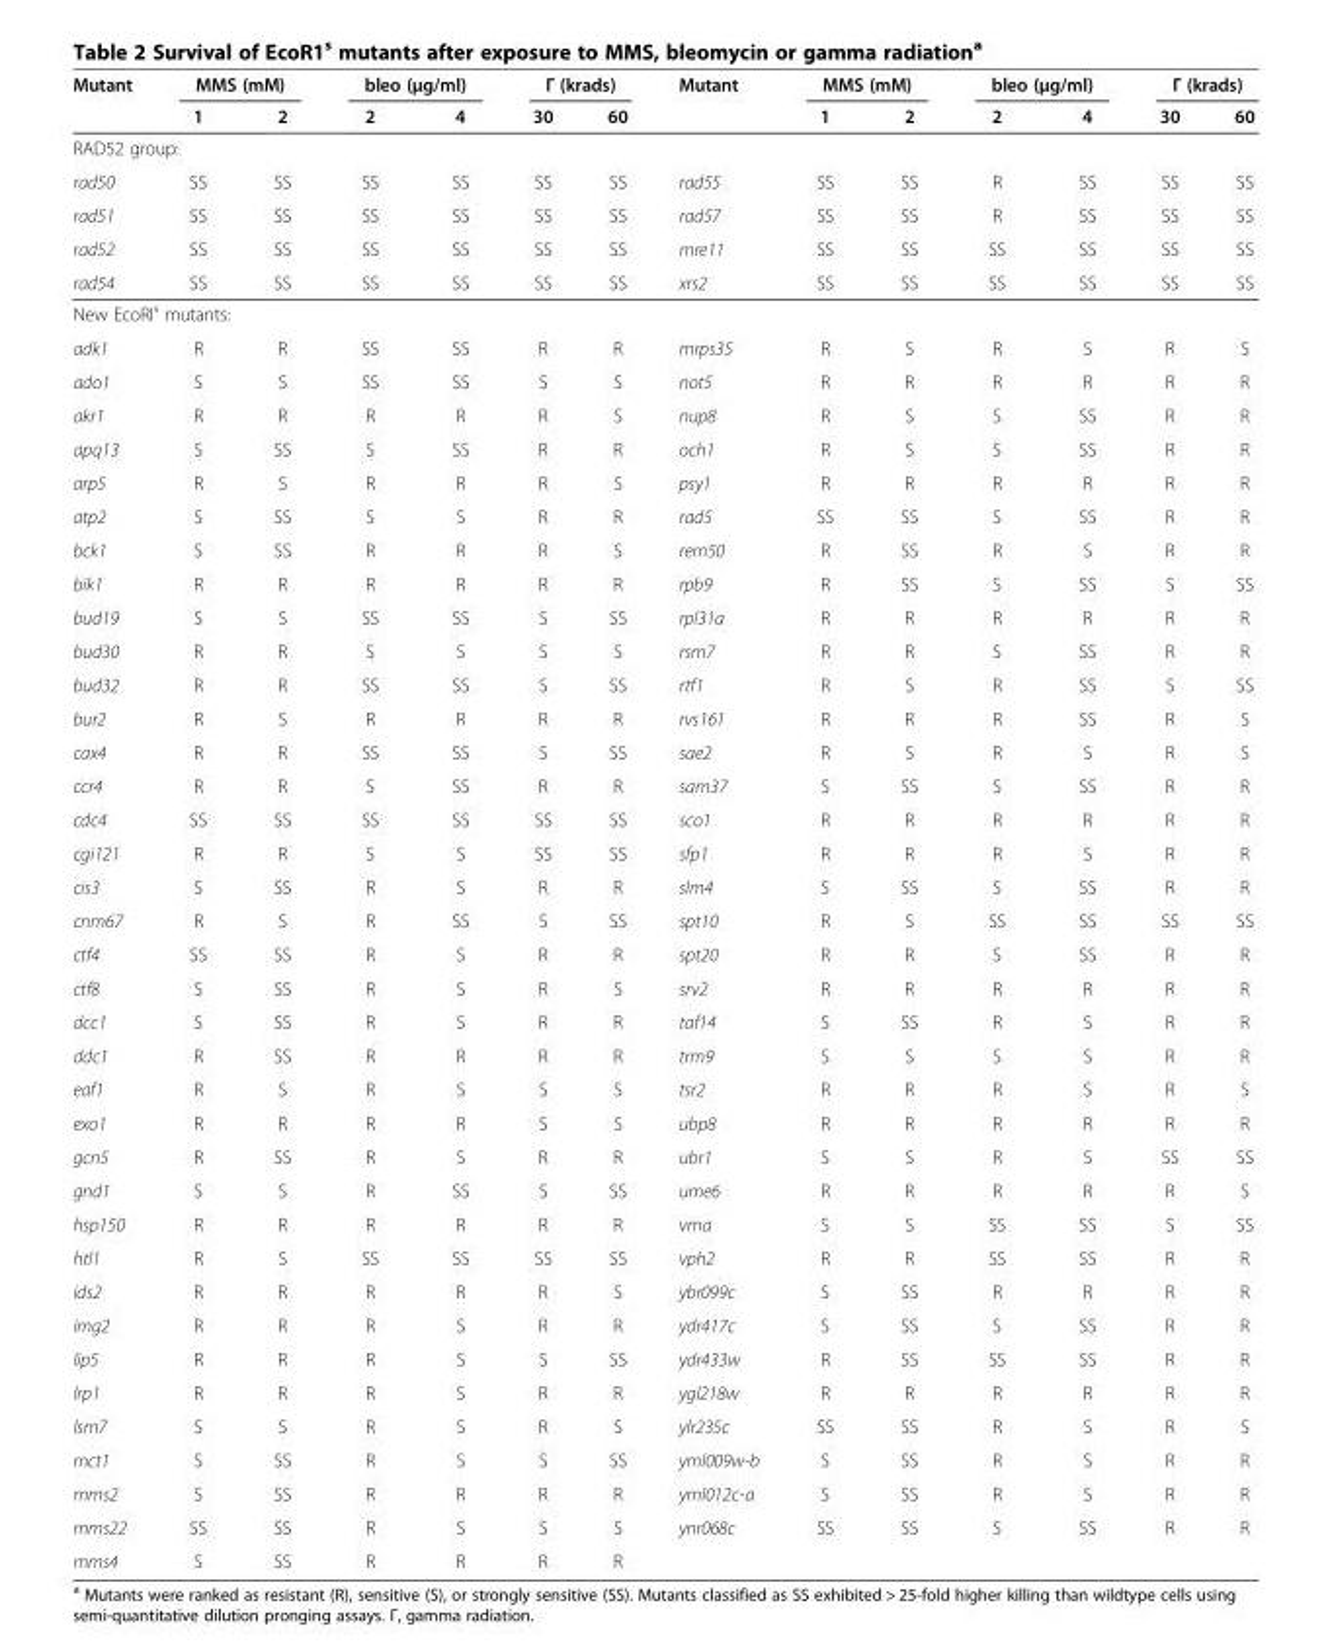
<table><thead><tr><td rowspan="2">Mutant</td><td colspan="2">MMS (mM)</td><td colspan="2">bleo (μg/ml)</td><td colspan="2">Γ (krads)</td><td rowspan="2">Mutant</td><td colspan="2">MMS (mM)</td><td colspan="2">bleo (μg/ml)</td><td colspan="2">Γ (krads)</td></tr><tr><td>1</td><td>2</td><td>2</td><td>4</td><td>30</td><td>60</td><td>1</td><td>2</td><td>2</td><td>4</td><td>30</td><td>60</td></tr></thead><tbody><tr><td colspan="14">RAD52 group:</td></tr><tr><td>rad50</td><td>SS</td><td>SS</td><td>SS</td><td>SS</td><td>SS</td><td>SS</td><td>rad55</td><td>SS</td><td>SS</td><td>R</td><td>SS</td><td>SS</td><td>SS</td></tr><tr><td>rad51</td><td>SS</td><td>SS</td><td>SS</td><td>SS</td><td>SS</td><td>SS</td><td>rad57</td><td>SS</td><td>SS</td><td>R</td><td>SS</td><td>SS</td><td>SS</td></tr><tr><td>rad52</td><td>SS</td><td>SS</td><td>SS</td><td>SS</td><td>SS</td><td>SS</td><td>mre11</td><td>SS</td><td>SS</td><td>SS</td><td>SS</td><td>SS</td><td>SS</td></tr><tr><td>rad54</td><td>SS</td><td>SS</td><td>SS</td><td>SS</td><td>SS</td><td>SS</td><td>xrs2</td><td>SS</td><td>SS</td><td>SS</td><td>SS</td><td>SS</td><td>SS</td></tr><tr><td colspan="14">New EcoRI<sup>s</sup> mutants:</td></tr><tr><td>adk1</td><td>R</td><td>R</td><td>SS</td><td>SS</td><td>R</td><td>R</td><td>mrps35</td><td>R</td><td>S</td><td>R</td><td>S</td><td>R</td><td>S</td></tr><tr><td>ado1</td><td>S</td><td>S</td><td>SS</td><td>SS</td><td>S</td><td>S</td><td>not5</td><td>R</td><td>R</td><td>R</td><td>R</td><td>R</td><td>R</td></tr><tr><td>akr1</td><td>R</td><td>R</td><td>R</td><td>R</td><td>R</td><td>S</td><td>nup8</td><td>R</td><td>S</td><td>S</td><td>SS</td><td>R</td><td>R</td></tr><tr><td>apq13</td><td>S</td><td>SS</td><td>S</td><td>SS</td><td>R</td><td>R</td><td>och1</td><td>R</td><td>S</td><td>S</td><td>SS</td><td>R</td><td>R</td></tr><tr><td>arp5</td><td>R</td><td>S</td><td>R</td><td>R</td><td>R</td><td>S</td><td>psy1</td><td>R</td><td>R</td><td>R</td><td>R</td><td>R</td><td>R</td></tr><tr><td>atp2</td><td>S</td><td>SS</td><td>S</td><td>S</td><td>R</td><td>R</td><td>rad5</td><td>SS</td><td>SS</td><td>S</td><td>SS</td><td>R</td><td>R</td></tr><tr><td>bck1</td><td>S</td><td>SS</td><td>R</td><td>R</td><td>R</td><td>S</td><td>rem50</td><td>R</td><td>SS</td><td>R</td><td>S</td><td>R</td><td>R</td></tr><tr><td>bik1</td><td>R</td><td>R</td><td>R</td><td>R</td><td>R</td><td>R</td><td>rpb9</td><td>R</td><td>SS</td><td>S</td><td>SS</td><td>S</td><td>SS</td></tr><tr><td>bud19</td><td>S</td><td>S</td><td>SS</td><td>SS</td><td>S</td><td>SS</td><td>rpl31a</td><td>R</td><td>R</td><td>R</td><td>R</td><td>R</td><td>R</td></tr><tr><td>bud30</td><td>R</td><td>R</td><td>S</td><td>S</td><td>S</td><td>S</td><td>rsm7</td><td>R</td><td>R</td><td>S</td><td>SS</td><td>R</td><td>R</td></tr><tr><td>bud32</td><td>R</td><td>R</td><td>SS</td><td>SS</td><td>S</td><td>SS</td><td>rtf1</td><td>R</td><td>S</td><td>R</td><td>SS</td><td>S</td><td>SS</td></tr><tr><td>bur2</td><td>R</td><td>S</td><td>R</td><td>R</td><td>R</td><td>R</td><td>rvs161</td><td>R</td><td>R</td><td>R</td><td>SS</td><td>R</td><td>S</td></tr><tr><td>cax4</td><td>R</td><td>R</td><td>SS</td><td>SS</td><td>S</td><td>SS</td><td>sae2</td><td>R</td><td>S</td><td>R</td><td>S</td><td>R</td><td>S</td></tr><tr><td>ccr4</td><td>R</td><td>R</td><td>S</td><td>SS</td><td>R</td><td>R</td><td>sam37</td><td>S</td><td>SS</td><td>S</td><td>SS</td><td>R</td><td>R</td></tr><tr><td>cdc4</td><td>SS</td><td>SS</td><td>SS</td><td>SS</td><td>SS</td><td>SS</td><td>sco1</td><td>R</td><td>R</td><td>R</td><td>R</td><td>R</td><td>R</td></tr><tr><td>cgi121</td><td>R</td><td>R</td><td>S</td><td>S</td><td>SS</td><td>SS</td><td>sfp1</td><td>R</td><td>R</td><td>R</td><td>S</td><td>R</td><td>R</td></tr><tr><td>cis3</td><td>S</td><td>SS</td><td>R</td><td>S</td><td>R</td><td>R</td><td>slm4</td><td>S</td><td>SS</td><td>S</td><td>SS</td><td>R</td><td>R</td></tr><tr><td>cnm67</td><td>R</td><td>S</td><td>R</td><td>SS</td><td>S</td><td>SS</td><td>spt10</td><td>R</td><td>S</td><td>SS</td><td>SS</td><td>SS</td><td>SS</td></tr><tr><td>ctf4</td><td>SS</td><td>SS</td><td>R</td><td>S</td><td>R</td><td>R</td><td>spt20</td><td>R</td><td>R</td><td>S</td><td>SS</td><td>R</td><td>R</td></tr><tr><td>ctf8</td><td>S</td><td>SS</td><td>R</td><td>S</td><td>R</td><td>S</td><td>srv2</td><td>R</td><td>R</td><td>R</td><td>R</td><td>R</td><td>R</td></tr><tr><td>dcc1</td><td>S</td><td>SS</td><td>R</td><td>S</td><td>R</td><td>R</td><td>taf14</td><td>S</td><td>SS</td><td>R</td><td>S</td><td>R</td><td>R</td></tr><tr><td>ddc1</td><td>R</td><td>SS</td><td>R</td><td>R</td><td>R</td><td>R</td><td>trm9</td><td>S</td><td>S</td><td>S</td><td>S</td><td>R</td><td>R</td></tr><tr><td>eaf1</td><td>R</td><td>S</td><td>R</td><td>S</td><td>S</td><td>S</td><td>tsr2</td><td>R</td><td>R</td><td>R</td><td>S</td><td>R</td><td>S</td></tr><tr><td>exo1</td><td>R</td><td>R</td><td>R</td><td>R</td><td>S</td><td>S</td><td>ubp8</td><td>R</td><td>R</td><td>R</td><td>R</td><td>R</td><td>R</td></tr><tr><td>gcn5</td><td>R</td><td>SS</td><td>R</td><td>S</td><td>R</td><td>R</td><td>ubr1</td><td>S</td><td>S</td><td>R</td><td>S</td><td>SS</td><td>SS</td></tr><tr><td>gnd1</td><td>S</td><td>S</td><td>R</td><td>SS</td><td>S</td><td>SS</td><td>ume6</td><td>R</td><td>R</td><td>R</td><td>R</td><td>R</td><td>S</td></tr><tr><td>hsp150</td><td>R</td><td>R</td><td>R</td><td>R</td><td>R</td><td>R</td><td>vma</td><td>S</td><td>S</td><td>SS</td><td>SS</td><td>S</td><td>SS</td></tr><tr><td>htl1</td><td>R</td><td>S</td><td>SS</td><td>SS</td><td>SS</td><td>SS</td><td>vph2</td><td>R</td><td>R</td><td>SS</td><td>SS</td><td>R</td><td>R</td></tr><tr><td>ids2</td><td>R</td><td>R</td><td>R</td><td>R</td><td>R</td><td>S</td><td>ybr099c</td><td>S</td><td>SS</td><td>R</td><td>R</td><td>R</td><td>R</td></tr><tr><td>img2</td><td>R</td><td>R</td><td>R</td><td>S</td><td>R</td><td>R</td><td>ydr417c</td><td>S</td><td>SS</td><td>S</td><td>SS</td><td>R</td><td>R</td></tr><tr><td>lip5</td><td>R</td><td>R</td><td>R</td><td>S</td><td>S</td><td>SS</td><td>ydr433w</td><td>R</td><td>SS</td><td>SS</td><td>SS</td><td>R</td><td>R</td></tr><tr><td>lrp1</td><td>R</td><td>R</td><td>R</td><td>S</td><td>R</td><td>R</td><td>ygl218w</td><td>R</td><td>R</td><td>R</td><td>R</td><td>R</td><td>R</td></tr><tr><td>lsm7</td><td>S</td><td>S</td><td>R</td><td>S</td><td>R</td><td>S</td><td>ylr235c</td><td>SS</td><td>SS</td><td>R</td><td>S</td><td>R</td><td>S</td></tr><tr><td>mct1</td><td>S</td><td>SS</td><td>R</td><td>S</td><td>S</td><td>SS</td><td>yml009w-b</td><td>S</td><td>SS</td><td>R</td><td>S</td><td>R</td><td>R</td></tr><tr><td>mms2</td><td>S</td><td>SS</td><td>R</td><td>R</td><td>R</td><td>R</td><td>yml012c-a</td><td>S</td><td>SS</td><td>R</td><td>S</td><td>R</td><td>R</td></tr><tr><td>mms22</td><td>SS</td><td>SS</td><td>R</td><td>S</td><td>S</td><td>S</td><td>ynr068c</td><td>SS</td><td>SS</td><td>S</td><td>SS</td><td>R</td><td>R</td></tr><tr><td>mms4</td><td>S</td><td>SS</td><td>R</td><td>R</td><td>R</td><td>R</td><td></td><td></td><td></td><td></td><td></td><td></td><td></td></tr></tbody></table>